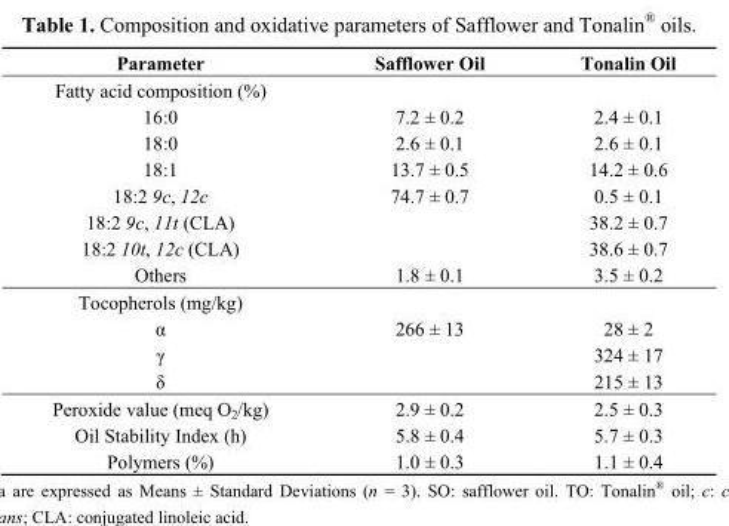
<table><thead><tr><td>Parameter</td><td>Safflower Oil</td><td>Tonalin Oil</td></tr></thead><tbody><tr><td colspan="3">Fatty acid composition (%)</td></tr><tr><td>16:0</td><td>7.2 ± 0.2</td><td>2.4 ± 0.1</td></tr><tr><td>18:0</td><td>2.6 ± 0.1</td><td>2.6 ± 0.1</td></tr><tr><td>18:1</td><td>13.7 ± 0.5</td><td>14.2 ± 0.6</td></tr><tr><td>18:2 9c, 12c</td><td>74.7 ± 0.7</td><td>0.5 ± 0.1</td></tr><tr><td>18:2 9c, 11t (CLA)</td><td></td><td>38.2 ± 0.7</td></tr><tr><td>18:2 10t, 12c (CLA)</td><td></td><td>38.6 ± 0.7</td></tr><tr><td>Others</td><td>1.8 ± 0.1</td><td>3.5 ± 0.2</td></tr><tr><td colspan="3">Tocopherols (mg/kg)</td></tr><tr><td>α</td><td>266 ± 13</td><td>28 ± 2</td></tr><tr><td>γ</td><td></td><td>324 ± 17</td></tr><tr><td>δ</td><td></td><td>215 ± 13</td></tr><tr><td>Peroxide value (meq O<sub>2</sub>/kg)</td><td>2.9 ± 0.2</td><td>2.5 ± 0.3</td></tr><tr><td>Oil Stability Index (h)</td><td>5.8 ± 0.4</td><td>5.7 ± 0.3</td></tr><tr><td>Polymers (%)</td><td>1.0 ± 0.3</td><td>1.1 ± 0.4</td></tr></tbody></table>